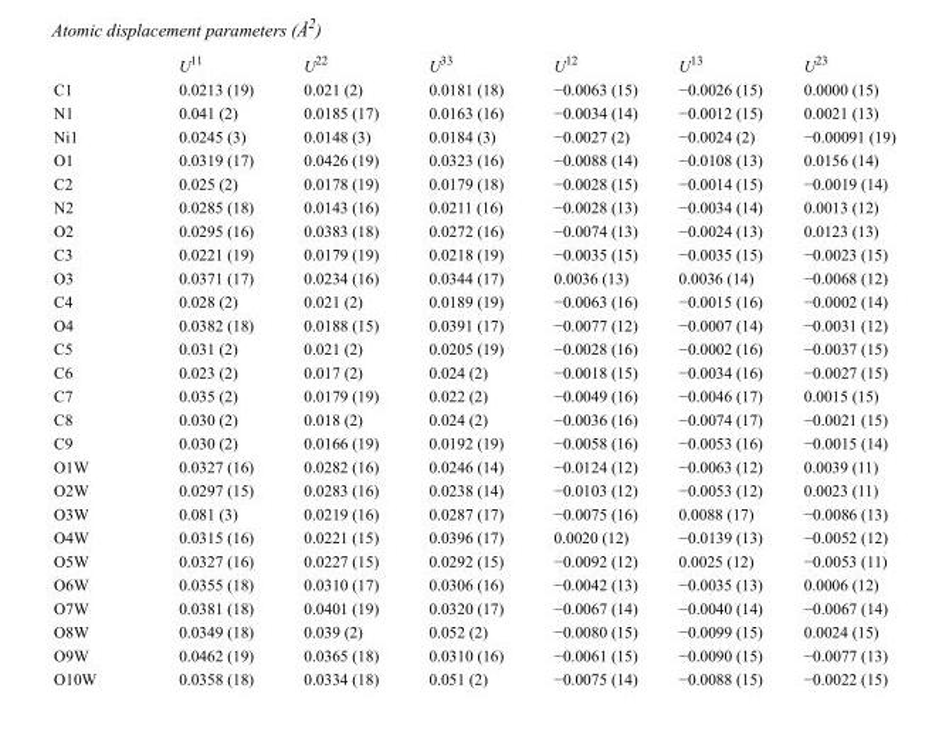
<table><thead><tr><td></td><td>U<sup>11</sup></td><td>U<sup>22</sup></td><td>U<sup>33</sup></td><td>U<sup>12</sup></td><td>U<sup>13</sup></td><td>U<sup>23</sup></td></tr></thead><tbody><tr><td>C1</td><td>0.0213 (19)</td><td>0.021 (2)</td><td>0.0181 (18)</td><td>−0.0063 (15)</td><td>−0.0026 (15)</td><td>0.0000 (15)</td></tr><tr><td>N1</td><td>0.041 (2)</td><td>0.0185 (17)</td><td>0.0163 (16)</td><td>−0.0034 (14)</td><td>−0.0012 (15)</td><td>0.0021 (13)</td></tr><tr><td>Ni1</td><td>0.0245 (3)</td><td>0.0148 (3)</td><td>0.0184 (3)</td><td>−0.0027 (2)</td><td>−0.0024 (2)</td><td>−0.00091 (19)</td></tr><tr><td>O1</td><td>0.0319 (17)</td><td>0.0426 (19)</td><td>0.0323 (16)</td><td>−0.0088 (14)</td><td>−0.0108 (13)</td><td>0.0156 (14)</td></tr><tr><td>C2</td><td>0.025 (2)</td><td>0.0178 (19)</td><td>0.0179 (18)</td><td>−0.0028 (15)</td><td>−0.0014 (15)</td><td>−0.0019 (14)</td></tr><tr><td>N2</td><td>0.0285 (18)</td><td>0.0143 (16)</td><td>0.0211 (16)</td><td>−0.0028 (13)</td><td>−0.0034 (14)</td><td>0.0013 (12)</td></tr><tr><td>O2</td><td>0.0295 (16)</td><td>0.0383 (18)</td><td>0.0272 (16)</td><td>−0.0074 (13)</td><td>−0.0024 (13)</td><td>0.0123 (13)</td></tr><tr><td>C3</td><td>0.0221 (19)</td><td>0.0179 (19)</td><td>0.0218 (19)</td><td>−0.0035 (15)</td><td>−0.0035 (15)</td><td>−0.0023 (15)</td></tr><tr><td>O3</td><td>0.0371 (17)</td><td>0.0234 (16)</td><td>0.0344 (17)</td><td>0.0036 (13)</td><td>0.0036 (14)</td><td>−0.0068 (12)</td></tr><tr><td>C4</td><td>0.028 (2)</td><td>0.021 (2)</td><td>0.0189 (19)</td><td>−0.0063 (16)</td><td>−0.0015 (16)</td><td>−0.0002 (14)</td></tr><tr><td>O4</td><td>0.0382 (18)</td><td>0.0188 (15)</td><td>0.0391 (17)</td><td>−0.0077 (12)</td><td>−0.0007 (14)</td><td>−0.0031 (12)</td></tr><tr><td>C5</td><td>0.031 (2)</td><td>0.021 (2)</td><td>0.0205 (19)</td><td>−0.0028 (16)</td><td>−0.0002 (16)</td><td>−0.0037 (15)</td></tr><tr><td>C6</td><td>0.023 (2)</td><td>0.017 (2)</td><td>0.024 (2)</td><td>−0.0018 (15)</td><td>−0.0034 (16)</td><td>−0.0027 (15)</td></tr><tr><td>C7</td><td>0.035 (2)</td><td>0.0179 (19)</td><td>0.022 (2)</td><td>−0.0049 (16)</td><td>−0.0046 (17)</td><td>0.0015 (15)</td></tr><tr><td>C8</td><td>0.030 (2)</td><td>0.018 (2)</td><td>0.024 (2)</td><td>−0.0036 (16)</td><td>−0.0074 (17)</td><td>−0.0021 (15)</td></tr><tr><td>C9</td><td>0.030 (2)</td><td>0.0166 (19)</td><td>0.0192 (19)</td><td>−0.0058 (16)</td><td>−0.0053 (16)</td><td>−0.0015 (14)</td></tr><tr><td>O1W</td><td>0.0327 (16)</td><td>0.0282 (16)</td><td>0.0246 (14)</td><td>−0.0124 (12)</td><td>−0.0063 (12)</td><td>0.0039 (11)</td></tr><tr><td>O2W</td><td>0.0297 (15)</td><td>0.0283 (16)</td><td>0.0238 (14)</td><td>−0.0103 (12)</td><td>−0.0053 (12)</td><td>0.0023 (11)</td></tr><tr><td>O3W</td><td>0.081 (3)</td><td>0.0219 (16)</td><td>0.0287 (17)</td><td>−0.0075 (16)</td><td>0.0088 (17)</td><td>−0.0086 (13)</td></tr><tr><td>O4W</td><td>0.0315 (16)</td><td>0.0221 (15)</td><td>0.0396 (17)</td><td>0.0020 (12)</td><td>−0.0139 (13)</td><td>−0.0052 (12)</td></tr><tr><td>O5W</td><td>0.0327 (16)</td><td>0.0227 (15)</td><td>0.0292 (15)</td><td>−0.0092 (12)</td><td>0.0025 (12)</td><td>−0.0053 (11)</td></tr><tr><td>O6W</td><td>0.0355 (18)</td><td>0.0310 (17)</td><td>0.0306 (16)</td><td>−0.0042 (13)</td><td>−0.0035 (13)</td><td>0.0006 (12)</td></tr><tr><td>O7W</td><td>0.0381 (18)</td><td>0.0401 (19)</td><td>0.0320 (17)</td><td>−0.0067 (14)</td><td>−0.0040 (14)</td><td>−0.0067 (14)</td></tr><tr><td>O8W</td><td>0.0349 (18)</td><td>0.039 (2)</td><td>0.052 (2)</td><td>−0.0080 (15)</td><td>−0.0099 (15)</td><td>0.0024 (15)</td></tr><tr><td>O9W</td><td>0.0462 (19)</td><td>0.0365 (18)</td><td>0.0310 (16)</td><td>−0.0061 (15)</td><td>−0.0090 (15)</td><td>−0.0077 (13)</td></tr><tr><td>O10W</td><td>0.0358 (18)</td><td>0.0334 (18)</td><td>0.051 (2)</td><td>−0.0075 (14)</td><td>−0.0088 (15)</td><td>−0.0022 (15)</td></tr></tbody></table>